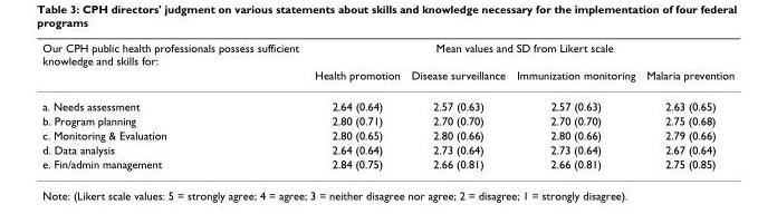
<table><thead><tr><td rowspan="2">Our CPH public health professionals possess sufficient knowledge and skills for:</td><td colspan="4">Mean values and SD from Likert scale</td></tr><tr><td>Health promotion</td><td>Disease surveillance</td><td>Immunization monitoring</td><td>Malaria prevention</td></tr></thead><tbody><tr><td>a. Needs assessment</td><td>2.64 (0.64)</td><td>2.57 (0.63)</td><td>2.57 (0.63)</td><td>2.63 (0.65)</td></tr><tr><td>b. Program planning</td><td>2.80 (0.71)</td><td>2.70 (0.70)</td><td>2.70 (0.70)</td><td>2.75 (0.68)</td></tr><tr><td>c. Monitoring &amp; Evaluation</td><td>2.80 (0.65)</td><td>2.80 (0.66)</td><td>2.80 (0.66)</td><td>2.79 (0.66)</td></tr><tr><td>d. Data analysis</td><td>2.64 (0.64)</td><td>2.73 (0.64)</td><td>2.73 (0.64)</td><td>2.67 (0.64)</td></tr><tr><td>e. Fin/admin management</td><td>2.84 (0.75)</td><td>2.66 (0.81)</td><td>2.66 (0.81)</td><td>2.75 (0.85)</td></tr></tbody></table>